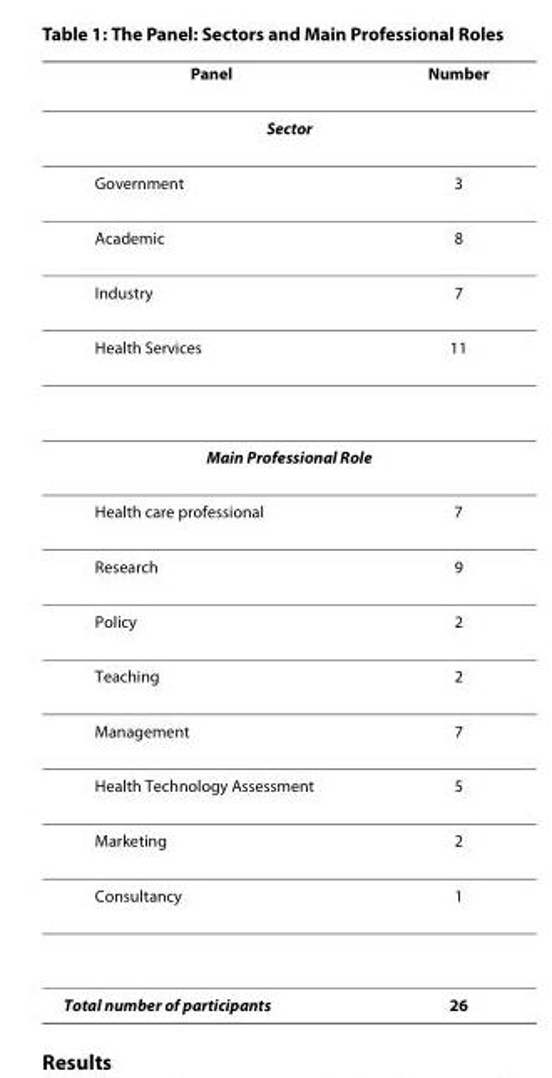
<table><thead><tr><td>Panel</td><td>Number</td></tr></thead><tbody><tr><td colspan="2">Sector</td></tr><tr><td>Government</td><td>3</td></tr><tr><td>Academic</td><td>8</td></tr><tr><td>Industry</td><td>7</td></tr><tr><td>Health Services</td><td>11</td></tr><tr><td colspan="2">Main Professional Role</td></tr><tr><td>Health care professional</td><td>7</td></tr><tr><td>Research</td><td>9</td></tr><tr><td>Policy</td><td>2</td></tr><tr><td>Teaching</td><td>2</td></tr><tr><td>Management</td><td>7</td></tr><tr><td>Health Technology Assessment</td><td>5</td></tr><tr><td>Marketing</td><td>2</td></tr><tr><td>Consultancy</td><td>1</td></tr><tr><td>Total number of participants</td><td>26</td></tr></tbody></table>